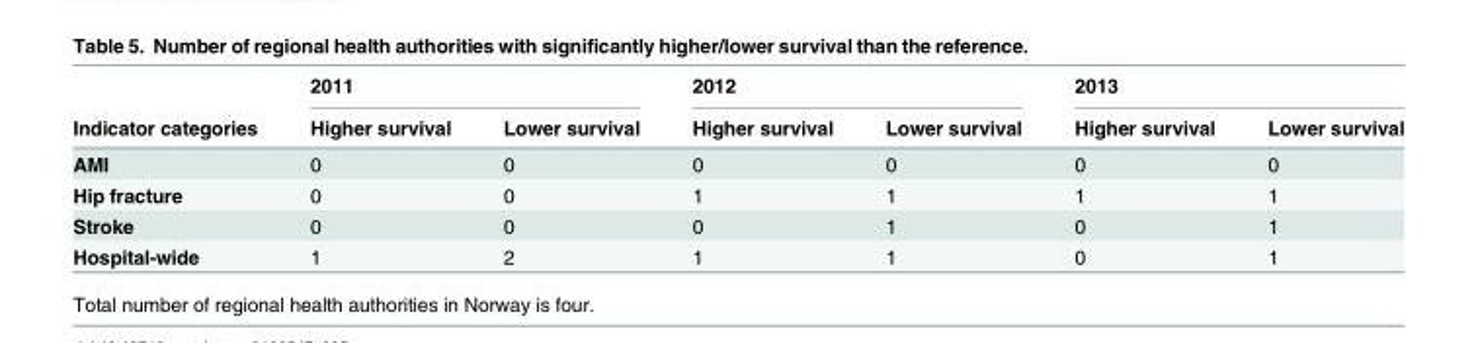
<table><thead><tr><td rowspan="2">Indicator categories</td><td colspan="2">2011</td><td colspan="2">2012</td><td colspan="2">2013</td></tr><tr><td>Higher survival</td><td>Lower survival</td><td>Higher survival</td><td>Lower survival</td><td>Higher survival</td><td>Lower survival</td></tr></thead><tbody><tr><td>AMI</td><td>0</td><td>0</td><td>0</td><td>0</td><td>0</td><td>0</td></tr><tr><td>Hip fracture</td><td>0</td><td>0</td><td>1</td><td>1</td><td>1</td><td>1</td></tr><tr><td>Stroke</td><td>0</td><td>0</td><td>0</td><td>1</td><td>0</td><td>1</td></tr><tr><td>Hospital-wide</td><td>1</td><td>2</td><td>1</td><td>1</td><td>0</td><td>1</td></tr></tbody></table>